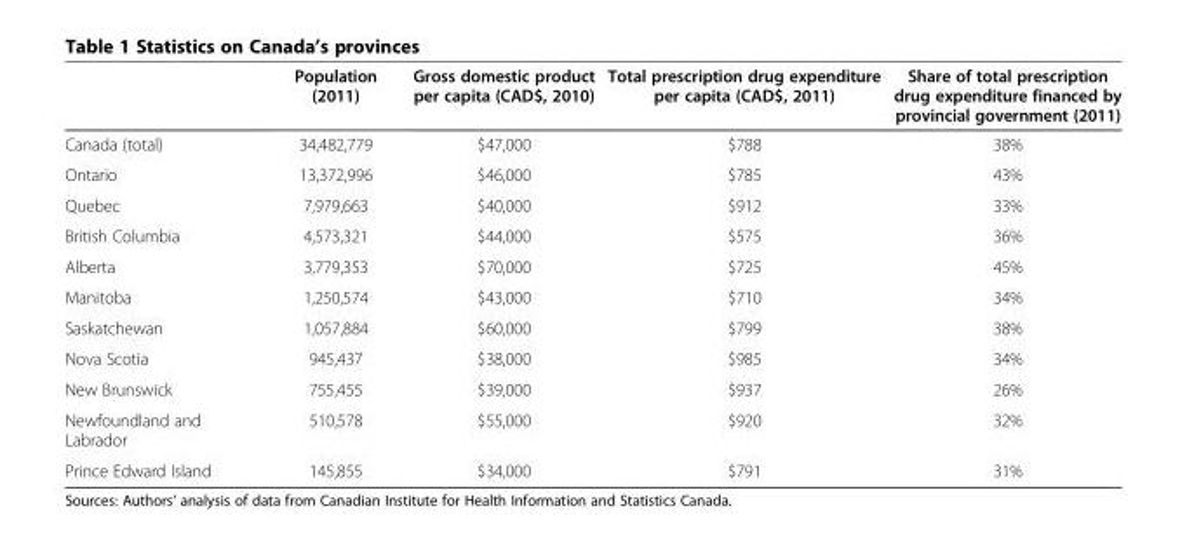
<table><thead><tr><td></td><td>Population (2011)</td><td>Gross domestic product per capita (CAD$, 2010)</td><td>Total prescription drug expenditure per capita (CAD$, 2011)</td><td>Share of total prescription drug expenditure financed by provincial government (2011)</td></tr></thead><tbody><tr><td>Canada (total)</td><td>34,482,779</td><td>$47,000</td><td>$788</td><td>38%</td></tr><tr><td>Ontario</td><td>13,372,996</td><td>$46,000</td><td>$785</td><td>43%</td></tr><tr><td>Quebec</td><td>7,979,663</td><td>$40,000</td><td>$912</td><td>33%</td></tr><tr><td>British Columbia</td><td>4,573,321</td><td>$44,000</td><td>$575</td><td>36%</td></tr><tr><td>Alberta</td><td>3,779,353</td><td>$70,000</td><td>$725</td><td>45%</td></tr><tr><td>Manitoba</td><td>1,250,574</td><td>$43,000</td><td>$710</td><td>34%</td></tr><tr><td>Saskatchewan</td><td>1,057,884</td><td>$60,000</td><td>$799</td><td>38%</td></tr><tr><td>Nova Scotia</td><td>945,437</td><td>$38,000</td><td>$985</td><td>34%</td></tr><tr><td>New Brunswick</td><td>755,455</td><td>$39,000</td><td>$937</td><td>26%</td></tr><tr><td>Newfoundland and Labrador</td><td>510,578</td><td>$55,000</td><td>$920</td><td>32%</td></tr><tr><td>Prince Edward Island</td><td>145,855</td><td>$34,000</td><td>$791</td><td>31%</td></tr></tbody></table>